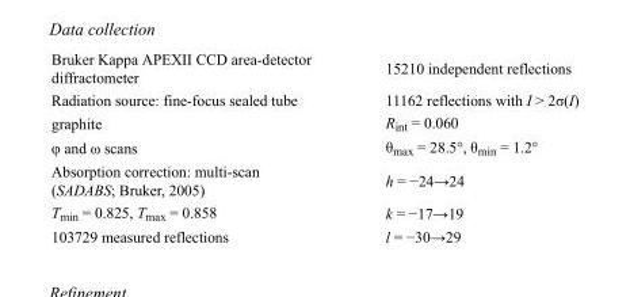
<table><tbody><tr><td>Bruker Kappa APEXII CCD area-detector diffractometer</td><td>15210 independent reflections</td></tr><tr><td>Radiation source: fine-focus sealed tube</td><td>11162 reflections with I &gt; 2σ(I)</td></tr><tr><td>graphite</td><td>R<sub>int</sub> = 0.060</td></tr><tr><td>φ and ω scans</td><td>θ<sub>max</sub> = 28.5°, θ<sub>min</sub> = 1.2°</td></tr><tr><td>Absorption correction: multi-scan (SADABS; Bruker, 2005)</td><td>h = −24→24</td></tr><tr><td>T<sub>min</sub> = 0.825, T<sub>max</sub> = 0.858</td><td>k = −17→19</td></tr><tr><td>103729 measured reflections</td><td>l = −30→29</td></tr></tbody></table>